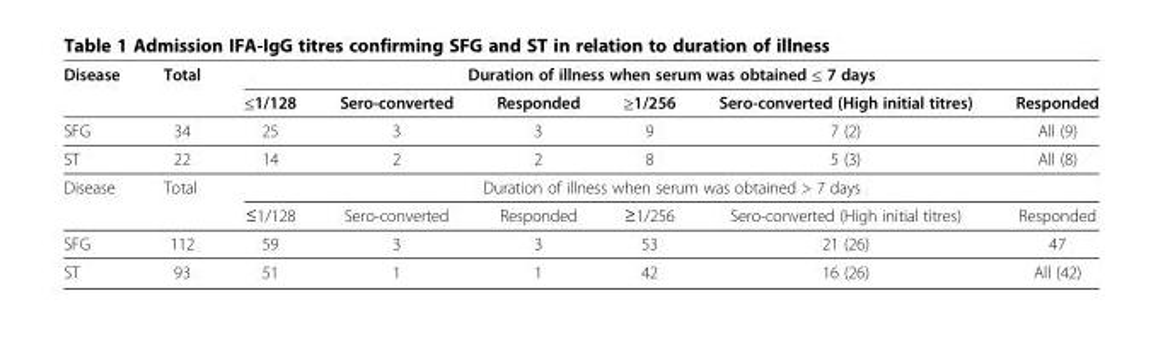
<table><thead><tr><td rowspan="2">Disease</td><td rowspan="2">Total</td><td colspan="6">Duration of illness when serum was obtained ≤ 7 days</td></tr><tr><td>≤1/128</td><td>Sero-converted</td><td>Responded</td><td>≥1/256</td><td>Sero-converted (High initial titres)</td><td>Responded</td></tr></thead><tbody><tr><td>SFG</td><td>34</td><td>25</td><td>3</td><td>3</td><td>9</td><td>7 (2)</td><td>All (9)</td></tr><tr><td>ST</td><td>22</td><td>14</td><td>2</td><td>2</td><td>8</td><td>5 (3)</td><td>All (8)</td></tr><tr><td rowspan="2">Disease</td><td>Total</td><td colspan="6">Duration of illness when serum was obtained &gt; 7 days</td></tr><tr><td></td><td>≤1/128</td><td>Sero-converted</td><td>Responded</td><td>≥1/256</td><td>Sero-converted (High initial titres)</td><td>Responded</td></tr><tr><td>SFG</td><td>112</td><td>59</td><td>3</td><td>3</td><td>53</td><td>21 (26)</td><td>47</td></tr><tr><td>ST</td><td>93</td><td>51</td><td>1</td><td>1</td><td>42</td><td>16 (26)</td><td>All (42)</td></tr></tbody></table>